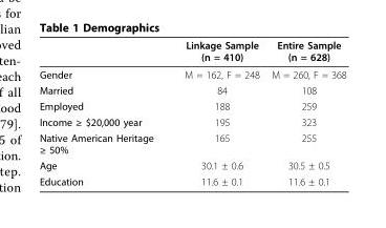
<table><thead><tr><td></td><td>Linkage Sample (n = 410)</td><td>Entire Sample (n = 628)</td></tr></thead><tbody><tr><td>Gender</td><td>M = 162, F = 248</td><td>M = 260, F = 368</td></tr><tr><td>Married</td><td>84</td><td>108</td></tr><tr><td>Employed</td><td>188</td><td>259</td></tr><tr><td>Income ≥ $20,000 year</td><td>195</td><td>323</td></tr><tr><td>Native American Heritage ≥ 50%</td><td>165</td><td>255</td></tr><tr><td>Age</td><td>30.1 ± 0.6</td><td>30.5 ± 0.5</td></tr><tr><td>Education</td><td>11.6 ± 0.1</td><td>11.6 ± 0.1</td></tr></tbody></table>